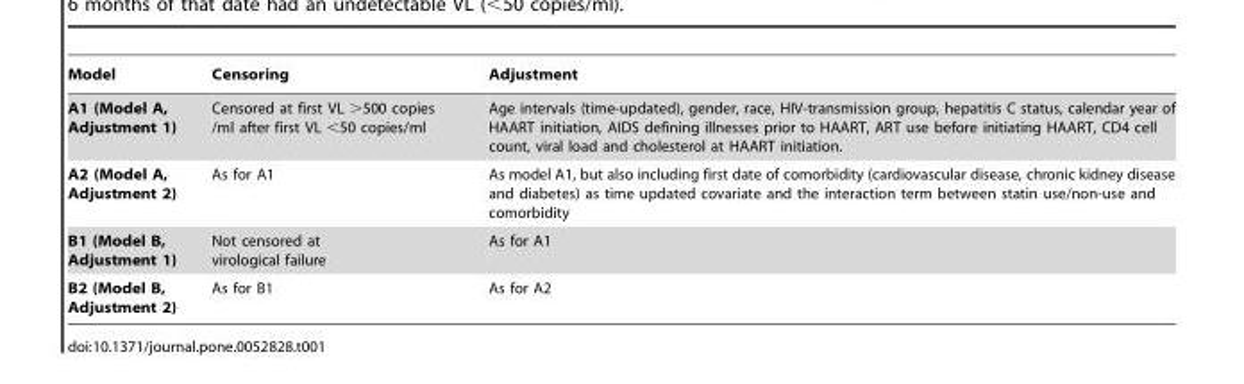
<table><thead><tr><td>Model</td><td>Censoring</td><td>Adjustment</td></tr></thead><tbody><tr><td>A1 (Model A, Adjustment 1)</td><td>Censored at first VL &gt;500 copies /ml after first VL &lt;50 copies/ml</td><td>Age intervals (time-updated), gender, race, HIV-transmission group, hepatitis C status, calendar year of HAART initiation, AIDS defining illnesses prior to HAART, ART use before initiating HAART, CD4 cell count, viral load and cholesterol at HAART initiation.</td></tr><tr><td>A2 (Model A, Adjustment 2)</td><td>As for A1</td><td>As model A1, but also including first date of comorbidity (cardiovascular disease, chronic kidney disease and diabetes) as time updated covariate and the interaction term between statin use/non-use and comorbidity</td></tr><tr><td>B1 (Model B, Adjustment 1)</td><td>Not censored at virological failure</td><td>As for A1</td></tr><tr><td>B2 (Model B, Adjustment 2)</td><td>As for B1</td><td>As for A2</td></tr></tbody></table>